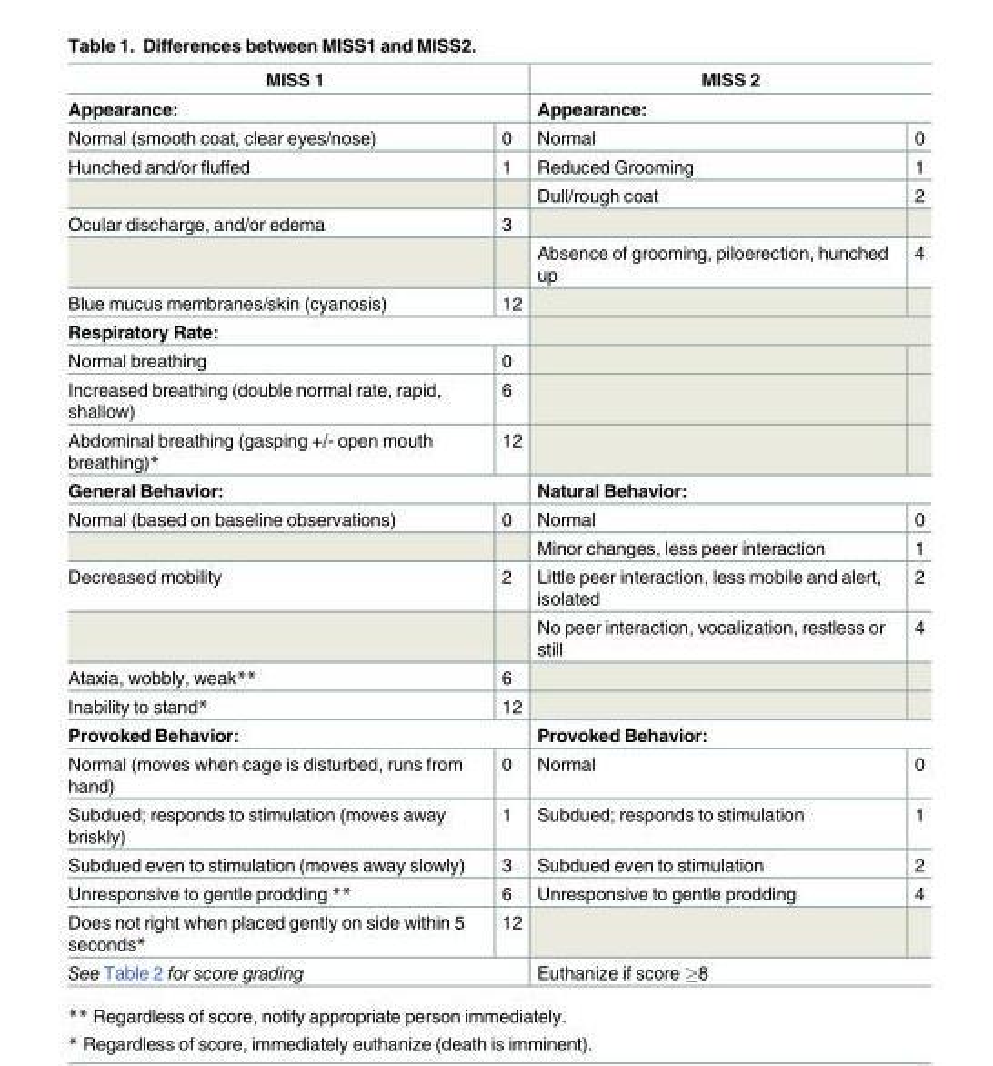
<table><thead><tr><td rowspan="2" colspan="2">MISS 1 Appearance:</td><td rowspan="2" colspan="2">MISS 2 Appearance:</td></tr><tr></tr><tr><td>Normal (smooth coat, clear eyes/nose)</td><td>0</td><td>Normal</td><td>0</td></tr></thead><tbody><tr><td rowspan="2">Hunched and/or fluffed</td><td>1</td><td>Reduced Grooming</td><td>1</td></tr><tr><td></td><td>Dull/rough coat</td><td>2</td></tr><tr><td rowspan="2">Ocular discharge, and/or edema</td><td>3</td><td></td><td></td></tr><tr><td></td><td>Absence of grooming, piloerection, hunched up</td><td>4</td></tr><tr><td>Blue mucus membranes/skin (cyanosis)</td><td>12</td><td></td><td></td></tr><tr><td colspan="4">Respiratory Rate:</td></tr><tr><td>Normal breathing</td><td>0</td><td></td><td></td></tr><tr><td>Increased breathing (double normal rate, rapid, shallow)</td><td>6</td><td></td><td></td></tr><tr><td>Abdominal breathing (gasping +/- open mouth breathing)*</td><td>12</td><td></td><td></td></tr><tr><td colspan="2">General Behavior:</td><td colspan="2">Natural Behavior:</td></tr><tr><td rowspan="2">Normal (based on baseline observations)</td><td>0</td><td>Normal</td><td>0</td></tr><tr><td></td><td>Minor changes, less peer interaction</td><td>1</td></tr><tr><td rowspan="2">Decreased mobility</td><td>2</td><td>Little peer interaction, less mobile and alert, isolated</td><td>2</td></tr><tr><td></td><td>No peer interaction, vocalization, restless or still</td><td>4</td></tr><tr><td>Ataxia, wobbly, weak**</td><td>6</td><td></td><td></td></tr><tr><td>Inability to stand*</td><td>12</td><td></td><td></td></tr><tr><td colspan="2">Provoked Behavior:</td><td colspan="2">Provoked Behavior:</td></tr><tr><td>Normal (moves when cage is disturbed, runs from hand)</td><td>0</td><td>Normal</td><td>0</td></tr><tr><td>Subdued; responds to stimulation (moves away briskly)</td><td>1</td><td>Subdued; responds to stimulation</td><td>1</td></tr><tr><td>Subdued even to stimulation (moves away slowly)</td><td>3</td><td>Subdued even to stimulation</td><td>2</td></tr><tr><td>Unresponsive to gentle prodding **</td><td>6</td><td>Unresponsive to gentle prodding</td><td>4</td></tr><tr><td>Does not right when placed gently on side within 5 seconds*</td><td>12</td><td></td><td></td></tr><tr><td colspan="2">See Table 2 for score grading</td><td colspan="2">Euthanize if score ≥8</td></tr></tbody></table>